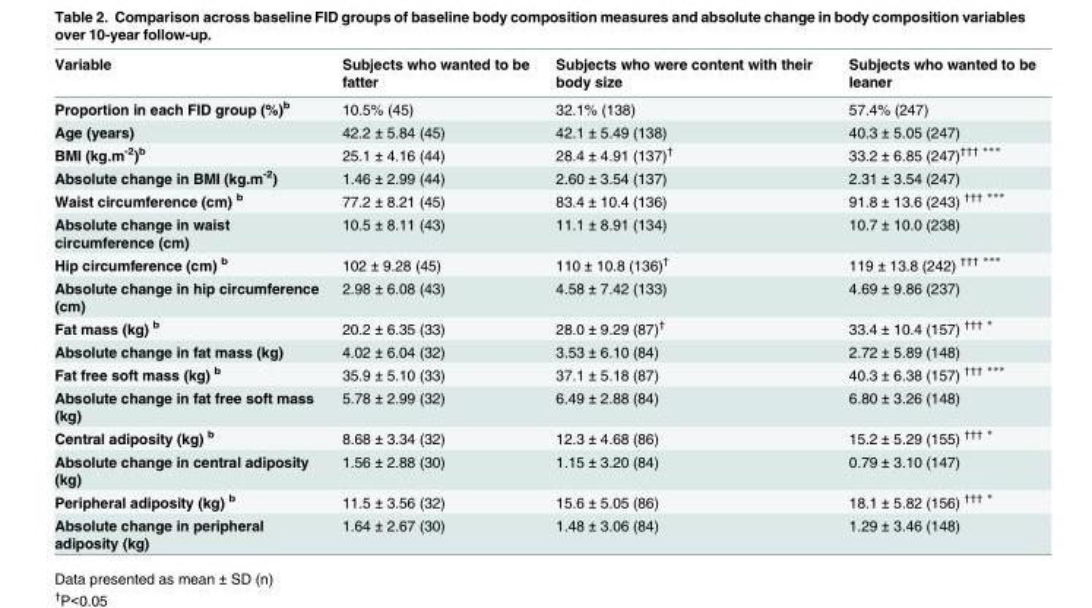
<table><thead><tr><td>Variable</td><td>Subjects who wanted to be fatter</td><td>Subjects who were content with their body size</td><td>Subjects who wanted to be leaner</td></tr></thead><tbody><tr><td>Proportion in each FID group (%)<sup>b</sup></td><td>10.5% (45)</td><td>32.1% (138)</td><td>57.4% (247)</td></tr><tr><td>Age (years)</td><td>42.2 ± 5.84 (45)</td><td>42.1 ± 5.49 (138)</td><td>40.3 ± 5.05 (247)</td></tr><tr><td>BMI (kg.m<sup>-2</sup>)<sup>b</sup></td><td>25.1 ± 4.16 (44)</td><td>28.4 ± 4.91 (137)<sup>†</sup></td><td>33.2 ± 6.85 (247)<sup>††† ***</sup></td></tr><tr><td>Absolute change in BMI (kg.m<sup>-2</sup>)</td><td>1.46 ± 2.99 (44)</td><td>2.60 ± 3.54 (137)</td><td>2.31 ± 3.54 (247)</td></tr><tr><td>Waist circumference (cm) <sup>b</sup></td><td>77.2 ± 8.21 (45)</td><td>83.4 ± 10.4 (136)</td><td>91.8 ± 13.6 (243) <sup>††† ***</sup></td></tr><tr><td>Absolute change in waist circumference (cm)</td><td>10.5 ± 8.11 (43)</td><td>11.1 ± 8.91 (134)</td><td>10.7 ± 10.0 (238)</td></tr><tr><td>Hip circumference (cm) <sup>b</sup></td><td>102 ± 9.28 (45)</td><td>110 ± 10.8 (136)<sup>†</sup></td><td>119 ± 13.8 (242) <sup>††† ***</sup></td></tr><tr><td>Absolute change in hip circumference (cm)</td><td>2.98 ± 6.08 (43)</td><td>4.58 ± 7.42 (133)</td><td>4.69 ± 9.86 (237)</td></tr><tr><td>Fat mass (kg) <sup>b</sup></td><td>20.2 ± 6.35 (33)</td><td>28.0 ± 9.29 (87)<sup>†</sup></td><td>33.4 ± 10.4 (157) <sup>††† *</sup></td></tr><tr><td>Absolute change in fat mass (kg)</td><td>4.02 ± 6.04 (32)</td><td>3.53 ± 6.10 (84)</td><td>2.72 ± 5.89 (148)</td></tr><tr><td>Fat free soft mass (kg) <sup>b</sup></td><td>35.9 ± 5.10 (33)</td><td>37.1 ± 5.18 (87)</td><td>40.3 ± 6.38 (157) <sup>††† ***</sup></td></tr><tr><td>Absolute change in fat free soft mass (kg)</td><td>5.78 ± 2.99 (32)</td><td>6.49 ± 2.88 (84)</td><td>6.80 ± 3.26 (148)</td></tr><tr><td>Central adiposity (kg) <sup>b</sup></td><td>8.68 ± 3.34 (32)</td><td>12.3 ± 4.68 (86)</td><td>15.2 ± 5.29 (155) <sup>††† *</sup></td></tr><tr><td>Absolute change in central adiposity (kg)</td><td>1.56 ± 2.88 (30)</td><td>1.15 ± 3.20 (84)</td><td>0.79 ± 3.10 (147)</td></tr><tr><td>Peripheral adiposity (kg) <sup>b</sup></td><td>11.5 ± 3.56 (32)</td><td>15.6 ± 5.05 (86)</td><td>18.1 ± 5.82 (156) <sup>††† *</sup></td></tr><tr><td>Absolute change in peripheral adiposity (kg)</td><td>1.64 ± 2.67 (30)</td><td>1.48 ± 3.06 (84)</td><td>1.29 ± 3.46 (148)</td></tr></tbody></table>